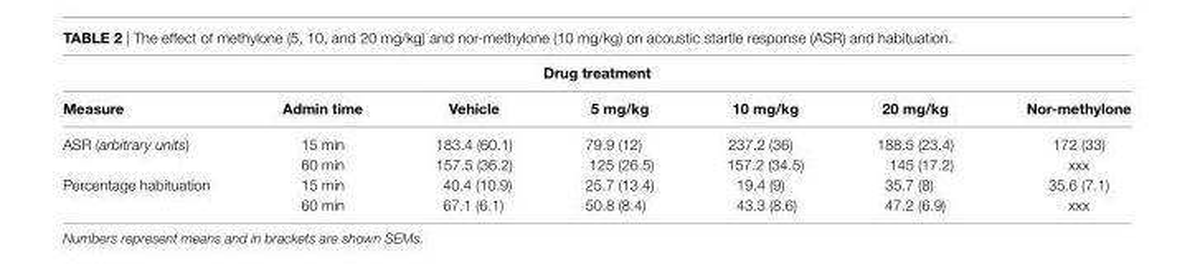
<table><thead><tr><td colspan="7">Drug treatment</td></tr><tr><td>Measure</td><td>admin time</td><td>Vehicle</td><td>5 mg/kg</td><td>10 mg/kg</td><td>20 mg/kg</td><td>nor-methylone</td></tr></thead><tbody><tr><td rowspan="2">ASR (arbitrary units)</td><td>15 min</td><td>183.4 (60.1)</td><td>79.9 (12)</td><td>237.2 (36)</td><td>188.5 (23.4)</td><td>172 (33)</td></tr><tr><td>60 min</td><td>157.5 (36.2)</td><td>125 (26.5)</td><td>157.2 (34.5)</td><td>145 (17.2)</td><td>xxx</td></tr><tr><td rowspan="2">Percentage habituation</td><td>15 min</td><td>40.4 (10.9)</td><td>25.7 (13.4)</td><td>19.4 (9)</td><td>35.7 (8)</td><td>35.6 (7.1)</td></tr><tr><td>60 min</td><td>67.1 (6.1)</td><td>50.8 (8.4)</td><td>43.3 (8.6)</td><td>47.2 (6.9)</td><td>xxx</td></tr></tbody></table>